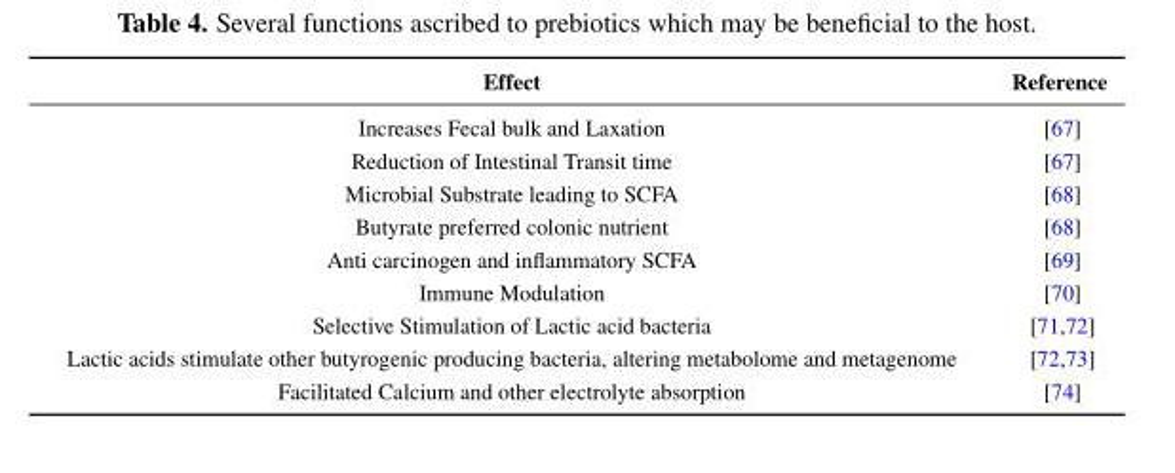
<table><thead><tr><td>Effect</td><td>Reference</td></tr></thead><tbody><tr><td>Increases Fecal bulk and Laxation</td><td>[67]</td></tr><tr><td>Reduction of Intestinal Transit time</td><td>[67]</td></tr><tr><td>Microbial Substrate leading to SCFA</td><td>[68]</td></tr><tr><td>Butyrate preferred colonic nutrient</td><td>[68]</td></tr><tr><td>Anti carcinogen and inflammatory SCFA</td><td>[69]</td></tr><tr><td>Immune Modulation</td><td>[70]</td></tr><tr><td>Selective Stimulation of Lactic acid bacteria</td><td>[71,72]</td></tr><tr><td>Lactic acids stimulate other butyrogenic producing bacteria, altering metabolome and metagenome</td><td>[72,73]</td></tr><tr><td>Facilitated Calcium and other electrolyte absorption</td><td>[74]</td></tr></tbody></table>